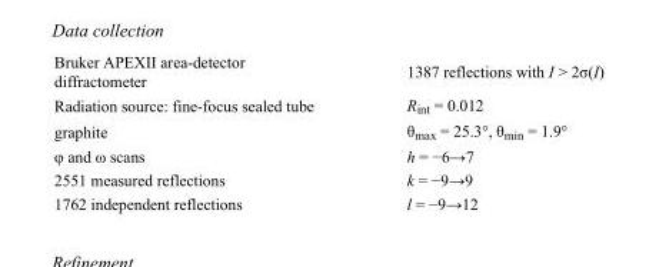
<table><tbody><tr><td>Bruker APEXII area-detector diffractometer</td><td>1387 reflections with I &gt; 2σ(I)</td></tr><tr><td>Radiation source: fine-focus sealed tube</td><td>R<sub>int</sub> = 0.012</td></tr><tr><td>graphite</td><td>θ<sub>max</sub> = 25.3°, θ<sub>min</sub> = 1.9°</td></tr><tr><td>φ and ω scans</td><td>h = −6→7</td></tr><tr><td>2551 measured reflections</td><td>k = −9→9</td></tr><tr><td>1762 independent reflections</td><td>l = −9→12</td></tr></tbody></table>